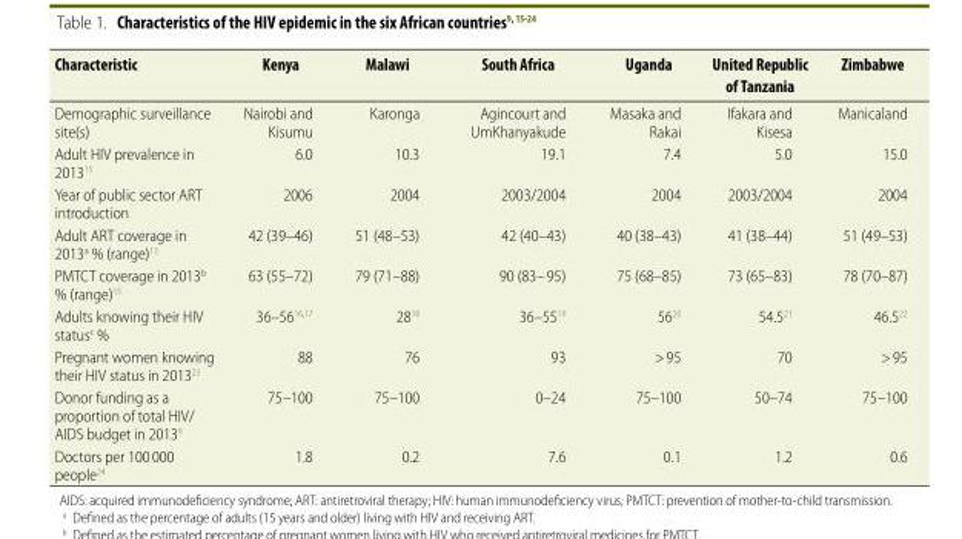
<table><thead><tr><td>Characteristic</td><td>Kenya</td><td>Malawi</td><td>South Africa</td><td>Uganda</td><td>United Republic of Tanzania</td><td>Zimbabwe</td></tr></thead><tbody><tr><td>Demographic surveillance site(s)</td><td>Nairobi and Kisumu</td><td>Karonga</td><td>Agincourt and UmKhanyakude</td><td>Masaka and Rakai</td><td>Ifakara and Kisesa</td><td>Manicaland</td></tr><tr><td>Adult HIV prevalence in 2013<sup>15</sup></td><td>6.0</td><td>10.3</td><td>19.1</td><td>7.4</td><td>5.0</td><td>15.0</td></tr><tr><td>Year of public sector ART introduction</td><td>2006</td><td>2004</td><td>2003/2004</td><td>2004</td><td>2003/2004</td><td>2004</td></tr><tr><td>Adult ART coverage in 2013<sup>a</sup> % (range)<sup>15</sup></td><td>42 (39–46)</td><td>51 (48–53)</td><td>42 (40–43)</td><td>40 (38–43)</td><td>41 (38–44)</td><td>51 (49–53)</td></tr><tr><td>PMTCT coverage in 2013<sup>b</sup> % (range)<sup>15</sup></td><td>63 (55–72)</td><td>79 (71–88)</td><td>90 (83– 95)</td><td>75 (68–85)</td><td>73 (65–83)</td><td>78 (70–87)</td></tr><tr><td>Adults knowing their HIV status<sup>c</sup> %</td><td>36–56<sup>16,17</sup></td><td>28<sup>18</sup></td><td>36–55<sup>19</sup></td><td>56<sup>20</sup></td><td>54.5<sup>21</sup></td><td>46.5<sup>22</sup></td></tr><tr><td>Pregnant women knowing their HIV status in 2013<sup>23</sup></td><td>88</td><td>76</td><td>93</td><td>&gt; 95</td><td>70</td><td>&gt; 95</td></tr><tr><td>Donor funding as a proportion of total HIV/ AIDS budget in 2013<sup>9</sup></td><td>75–100</td><td>75–100</td><td>0–24</td><td>75–100</td><td>50–74</td><td>75–100</td></tr><tr><td>Doctors per 100 000 people<sup>24</sup></td><td>1.8</td><td>0.2</td><td>7.6</td><td>0.1</td><td>1.2</td><td>0.6</td></tr></tbody></table>